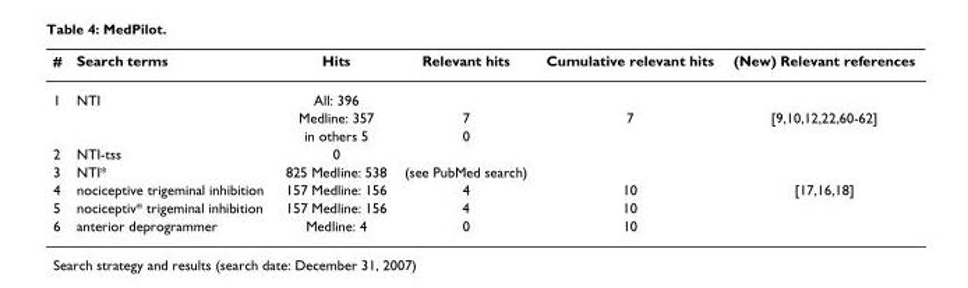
<table><thead><tr><td>#</td><td>Search terms</td><td>Hits</td><td>Relevant hits</td><td>Cumulative relevant hits</td><td>(New) Relevant references</td></tr></thead><tbody><tr><td rowspan="3">1</td><td>NTI</td><td>All: 396</td><td></td><td></td><td></td></tr><tr><td></td><td>Medline: 357</td><td>7</td><td>7</td><td>[9,10,12,22,60-62]</td></tr><tr><td></td><td>in others 5</td><td>0</td><td></td><td></td></tr><tr><td>2</td><td>NTI-tss</td><td>0</td><td></td><td></td><td></td></tr><tr><td>3</td><td>NTI*</td><td>825 Medline: 538</td><td>(see PubMed search)</td><td></td><td></td></tr><tr><td>4</td><td>nociceptive trigeminal inhibition</td><td>157 Medline: 156</td><td>4</td><td>10</td><td>[17,16,18]</td></tr><tr><td>5</td><td>nociceptiv* trigeminal inhibition</td><td>157 Medline: 156</td><td>4</td><td>10</td><td></td></tr><tr><td>6</td><td>anterior deprogrammer</td><td>Medline: 4</td><td>0</td><td>10</td><td></td></tr></tbody></table>